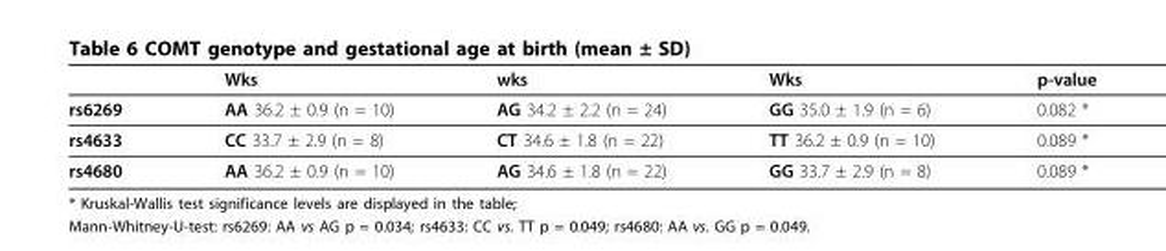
<table><thead><tr><td></td><td>Wks</td><td>wks</td><td>Wks</td><td>p-value</td></tr></thead><tbody><tr><td>rs6269</td><td>AA 36.2 ± 0.9 (n = 10)</td><td>AG 34.2 ± 2.2 (n = 24)</td><td>GG 35.0 ± 1.9 (n = 6)</td><td>0.082 *</td></tr><tr><td>rs4633</td><td>CC 33.7 ± 2.9 (n = 8)</td><td>CT 34.6 ± 1.8 (n = 22)</td><td>TT 36.2 ± 0.9 (n = 10)</td><td>0.089 *</td></tr><tr><td>rs4680</td><td>AA 36.2 ± 0.9 (n = 10)</td><td>AG 34.6 ± 1.8 (n = 22)</td><td>GG 33.7 ± 2.9 (n = 8)</td><td>0.089 *</td></tr></tbody></table>